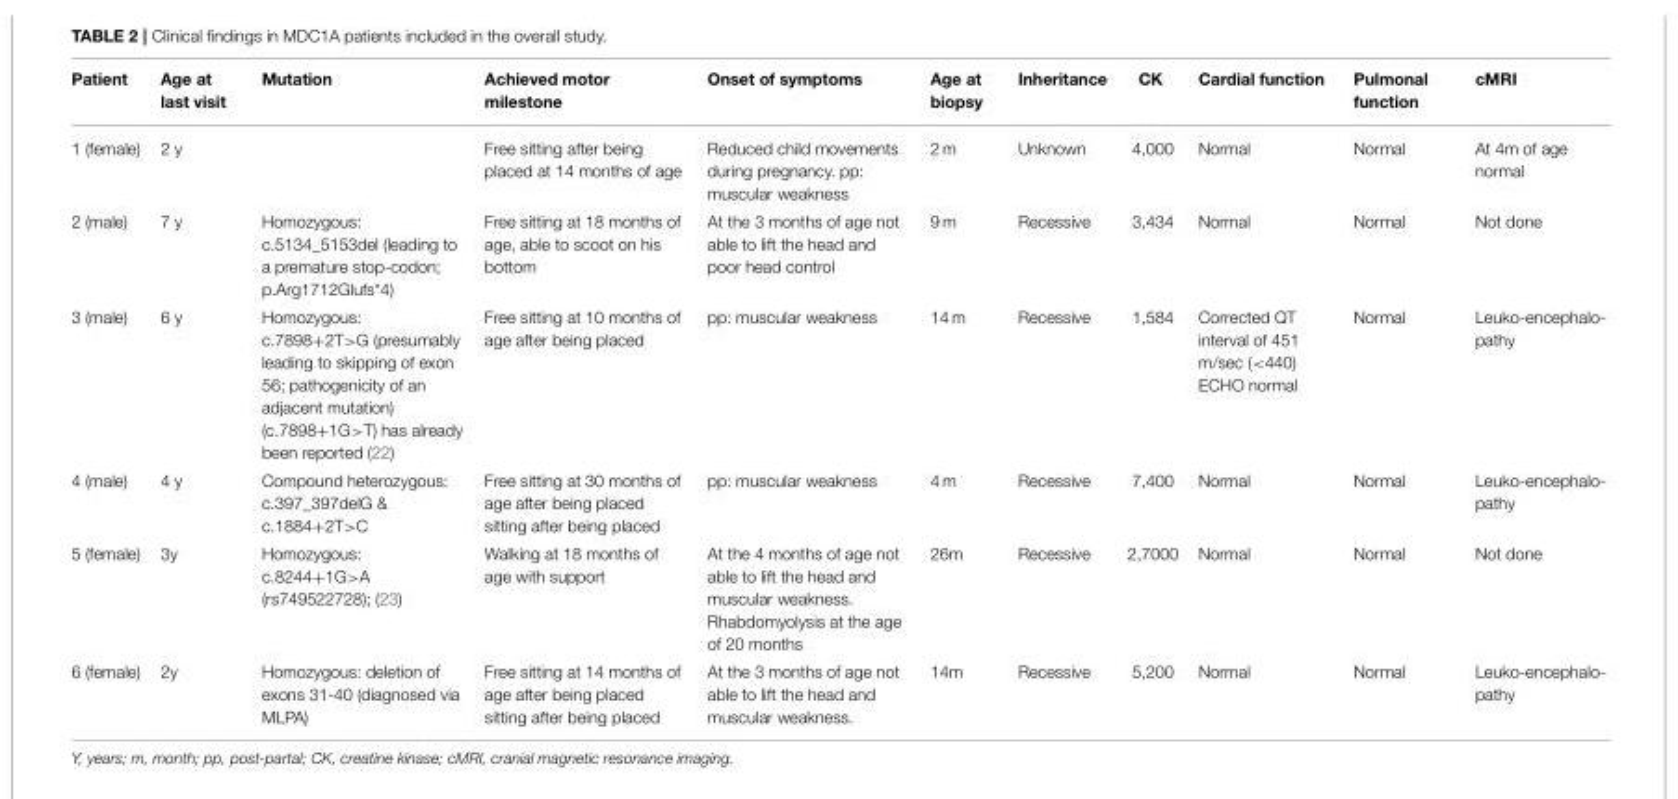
<table><thead><tr><td>Patient</td><td>Age at last visit</td><td>Mutation</td><td>Achieved motor milestone</td><td>Onset of symptoms</td><td>Age at biopsy</td><td>Inheritance</td><td>CK</td><td>Cardial function</td><td>Pulmonal function</td><td>cMRI</td></tr></thead><tbody><tr><td>1 (female)</td><td>2 y</td><td></td><td>Free sitting after being placed at 14 months of age</td><td>Reduced child movements during pregnancy. pp: muscular weakness</td><td>2 m</td><td>Unknown</td><td>4,000</td><td>Normal</td><td>Normal</td><td>At 4m of age normal</td></tr><tr><td>2 (male)</td><td>7 y</td><td>Homozygous: c.5134_5153del (leading to a premature stop-codon; p.Arg1712Glufs*4)</td><td>Free sitting at 18 months of age, able to scoot on his bottom</td><td>At the 3 months of age not able to lift the head and poor head control</td><td>9 m</td><td>Recessive</td><td>3,434</td><td>Normal</td><td>Normal</td><td>Not done</td></tr><tr><td>3 (male)</td><td>6 y</td><td>Homozygous: c.7898+2T&gt;G (presumably leading to skipping of exon 56; pathogenicity of an adjacent mutation) (c.7898+1G&gt;T) has already been reported (22)</td><td>Free sitting at 10 months of age after being placed</td><td>pp: muscular weakness</td><td>14 m</td><td>Recessive</td><td>1,584</td><td>Corrected QT interval of 451 m/sec (&lt;440) ECHO normal</td><td>Normal</td><td>Leuko-encephalo- pathy</td></tr><tr><td>4 (male)</td><td>4 y</td><td>Compound heterozygous: c.397_397delG &amp; c.1884+2T&gt;C</td><td>Free sitting at 30 months of age after being placed sitting after being placed</td><td>pp: muscular weakness</td><td>4 m</td><td>Recessive</td><td>7,400</td><td>Normal</td><td>Normal</td><td>Leuko-encephalo- pathy</td></tr><tr><td>5 (female)</td><td>3y</td><td>Homozygous: c.8244+1G&gt;A (rs749522728); (23)</td><td>Walking at 18 months of age with support</td><td>At the 4 months of age not able to lift the head and muscular weakness. Rhabdomyolysis at the age of 20 months</td><td>26m</td><td>Recessive</td><td>2,7000</td><td>Normal</td><td>Normal</td><td>Not done</td></tr><tr><td>6 (female)</td><td>2y</td><td>Homozygous: deletion of exons 31-40 (diagnosed via MLPA)</td><td>Free sitting at 14 months of age after being placed sitting after being placed</td><td>At the 3 months of age not able to lift the head and muscular weakness.</td><td>14m</td><td>Recessive</td><td>5,200</td><td>Normal</td><td>Normal</td><td>Leuko-encephalo- pathy</td></tr></tbody></table>